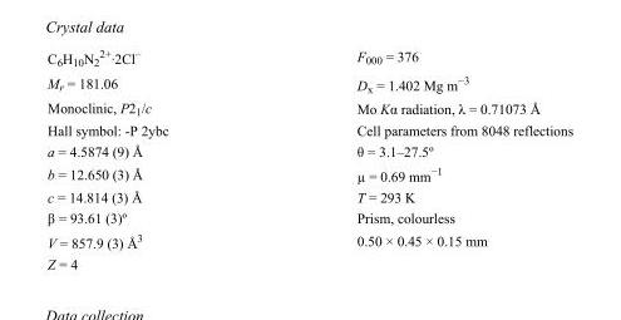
<table><tbody><tr><td>C<sub>6</sub>H<sub>10</sub>N<sub>2</sub> <sup>2+</sup>·2Cl<sup>–</sup></td><td>F000 = 376</td></tr><tr><td>M<sub>r</sub> = 181.06</td><td>D<sub>x</sub> = 1.402 Mg m<sup>−3</sup></td></tr><tr><td>Monoclinic, P2<sub>1</sub>/c</td><td>Mo Kα radiation, λ = 0.71073 Å</td></tr><tr><td>Hall symbol: -P 2ybc</td><td>Cell parameters from 8048 reflections</td></tr><tr><td>a = 4.5874 (9) Å</td><td>θ = 3.1–27.5º</td></tr><tr><td>b = 12.650 (3) Å</td><td>µ = 0.69 mm<sup>−1</sup></td></tr><tr><td>c = 14.814 (3) Å</td><td>T = 293 K</td></tr><tr><td>β = 93.61 (3)º</td><td>Prism, colourless</td></tr><tr><td>V = 857.9 (3) Å<sup>3</sup></td><td>0.50 × 0.45 × 0.15 mm</td></tr><tr><td>Z = 4</td><td></td></tr></tbody></table>